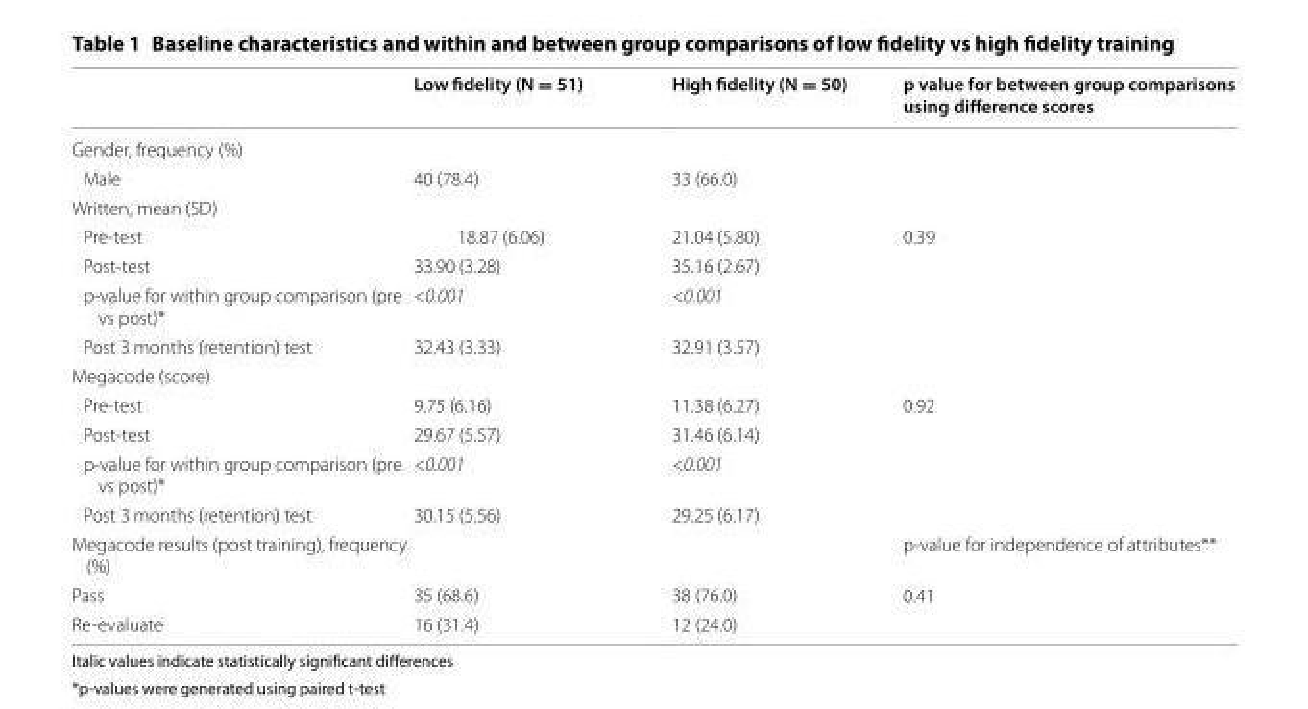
<table><thead><tr><td></td><td>Low fidelity (N = 51)</td><td>High fidelity (N = 50)</td><td>p value for between group comparisons using difference scores</td></tr></thead><tbody><tr><td colspan="4">Gender, frequency (%)</td></tr><tr><td>Male</td><td>40 (78.4)</td><td>33 (66.0)</td><td></td></tr><tr><td colspan="4">Written, mean (SD)</td></tr><tr><td>Pre-test</td><td>18.87 (6.06)</td><td>21.04 (5.80)</td><td rowspan="2">0.39</td></tr><tr><td>Post-test</td><td>33.90 (3.28)</td><td>35.16 (2.67)</td></tr><tr><td>p-value for within group comparison (pre vs post)*</td><td>&lt;0.001</td><td>&lt;0.001</td><td></td></tr><tr><td>Post 3 months (retention) test</td><td>32.43 (3.33)</td><td>32.91 (3.57)</td><td></td></tr><tr><td colspan="4">Megacode (score)</td></tr><tr><td>Pre-test</td><td>9.75 (6.16)</td><td>11.38 (6.27)</td><td rowspan="2">0.92</td></tr><tr><td>Post-test</td><td>29.67 (5.57)</td><td>31.46 (6.14)</td></tr><tr><td>p-value for within group comparison (pre vs post)*</td><td>&lt;0.001</td><td>&lt;0.001</td><td></td></tr><tr><td>Post 3 months (retention) test</td><td>30.15 (5.56)</td><td>29.25 (6.17)</td><td></td></tr><tr><td>Megacode results (post training), frequency (%)</td><td></td><td></td><td>p-value for independence of attributes**</td></tr><tr><td>Pass</td><td>35 (68.6)</td><td>38 (76.0)</td><td rowspan="2">0.41</td></tr><tr><td>Re-evaluate</td><td>16 (31.4)</td><td>12 (24.0)</td></tr></tbody></table>